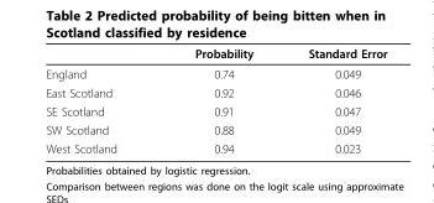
<table><thead><tr><td></td><td>Probability</td><td>Standard Error</td></tr></thead><tbody><tr><td>England</td><td>0.74</td><td>0.049</td></tr><tr><td>East Scotland</td><td>0.92</td><td>0.046</td></tr><tr><td>SE Scotland</td><td>0.91</td><td>0.047</td></tr><tr><td>SW Scotland</td><td>0.88</td><td>0.049</td></tr><tr><td>West Scotland</td><td>0.94</td><td>0.023</td></tr></tbody></table>